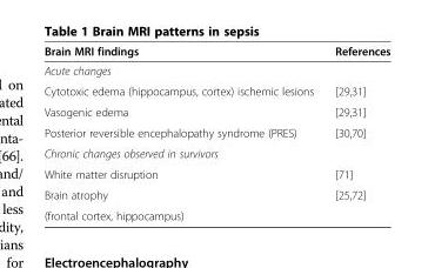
<table><thead><tr><td>Brain MRI findings</td><td>References</td></tr></thead><tbody><tr><td colspan="2">Acute changes</td></tr><tr><td>Cytotoxic edema (hippocampus, cortex) ischemic lesions</td><td>[29,31]</td></tr><tr><td>Vasogenic edema</td><td>[29,31]</td></tr><tr><td>Posterior reversible encephalopathy syndrome (PRES)</td><td>[30,70]</td></tr><tr><td colspan="2">Chronic changes observed in survivors</td></tr><tr><td>White matter disruption</td><td>[71]</td></tr><tr><td>Brain atrophy</td><td>[25,72]</td></tr><tr><td>(frontal cortex, hippocampus)</td><td></td></tr></tbody></table>